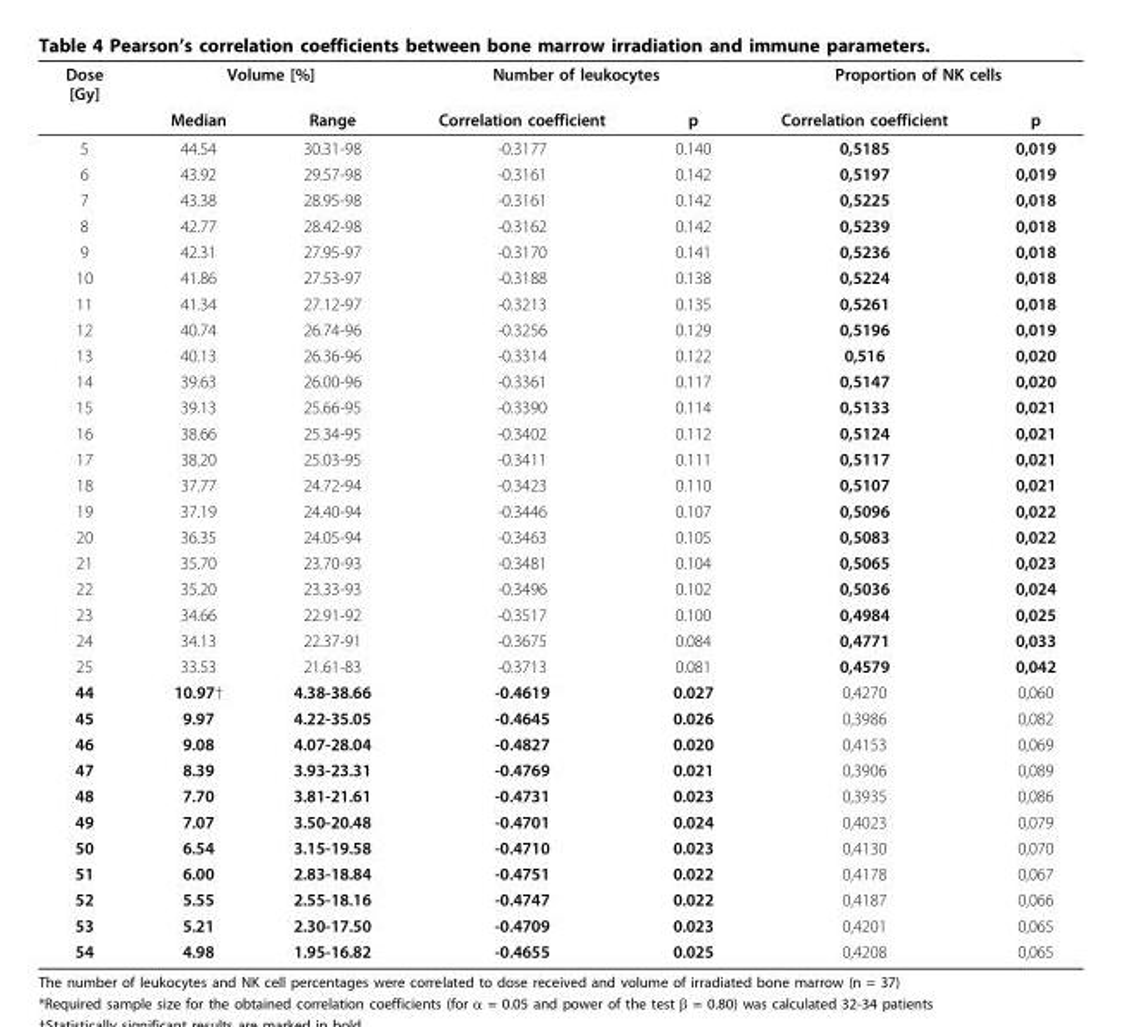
<table><thead><tr><td rowspan="2">Dose [Gy]</td><td colspan="2">Volume [%]</td><td colspan="2">Number of leukocytes</td><td colspan="2">Proportion of NK cells</td></tr><tr><td>Median</td><td>Range</td><td>Correlation coefficient</td><td>p</td><td>Correlation coefficient</td><td>p</td></tr></thead><tbody><tr><td>5</td><td>44.54</td><td>30.31-98</td><td>-0.3177</td><td>0.140</td><td>0,5185</td><td>0,019</td></tr><tr><td>6</td><td>43.92</td><td>29.57-98</td><td>-0.3161</td><td>0.142</td><td>0,5197</td><td>0,019</td></tr><tr><td>7</td><td>43.38</td><td>28.95-98</td><td>-0.3161</td><td>0.142</td><td>0,5225</td><td>0,018</td></tr><tr><td>8</td><td>42.77</td><td>28.42-98</td><td>-0.3162</td><td>0.142</td><td>0,5239</td><td>0,018</td></tr><tr><td>9</td><td>42.31</td><td>27.95-97</td><td>-0.3170</td><td>0.141</td><td>0,5236</td><td>0,018</td></tr><tr><td>10</td><td>41.86</td><td>27.53-97</td><td>-0.3188</td><td>0.138</td><td>0,5224</td><td>0,018</td></tr><tr><td>11</td><td>41.34</td><td>27.12-97</td><td>-0.3213</td><td>0.135</td><td>0,5261</td><td>0,018</td></tr><tr><td>12</td><td>40.74</td><td>26.74-96</td><td>-0.3256</td><td>0.129</td><td>0,5196</td><td>0,019</td></tr><tr><td>13</td><td>40.13</td><td>26.36-96</td><td>-0.3314</td><td>0.122</td><td>0,516</td><td>0,020</td></tr><tr><td>14</td><td>39.63</td><td>26.00-96</td><td>-0.3361</td><td>0.117</td><td>0,5147</td><td>0,020</td></tr><tr><td>15</td><td>39.13</td><td>25.66-95</td><td>-0.3390</td><td>0.114</td><td>0,5133</td><td>0,021</td></tr><tr><td>16</td><td>38.66</td><td>25.34-95</td><td>-0.3402</td><td>0.112</td><td>0,5124</td><td>0,021</td></tr><tr><td>17</td><td>38.20</td><td>25.03-95</td><td>-0.3411</td><td>0.111</td><td>0,5117</td><td>0,021</td></tr><tr><td>18</td><td>37.77</td><td>24.72-94</td><td>-0.3423</td><td>0.110</td><td>0,5107</td><td>0,021</td></tr><tr><td>19</td><td>37.19</td><td>24.40-94</td><td>-0.3446</td><td>0.107</td><td>0,5096</td><td>0,022</td></tr><tr><td>20</td><td>36.35</td><td>24.05-94</td><td>-0.3463</td><td>0.105</td><td>0,5083</td><td>0,022</td></tr><tr><td>21</td><td>35.70</td><td>23.70-93</td><td>-0.3481</td><td>0.104</td><td>0,5065</td><td>0,023</td></tr><tr><td>22</td><td>35.20</td><td>23.33-93</td><td>-0.3496</td><td>0.102</td><td>0,5036</td><td>0,024</td></tr><tr><td>23</td><td>34.66</td><td>22.91-92</td><td>-0.3517</td><td>0.100</td><td>0,4984</td><td>0,025</td></tr><tr><td>24</td><td>34.13</td><td>22.37-91</td><td>-0.3675</td><td>0.084</td><td>0,4771</td><td>0,033</td></tr><tr><td>25</td><td>33.53</td><td>21.61-83</td><td>-0.3713</td><td>0.081</td><td>0,4579</td><td>0,042</td></tr><tr><td>44</td><td>10.97†</td><td>4.38-38.66</td><td>-0.4619</td><td>0.027</td><td>0,4270</td><td>0,060</td></tr><tr><td>45</td><td>9.97</td><td>4.22-35.05</td><td>-0.4645</td><td>0.026</td><td>0,3986</td><td>0,082</td></tr><tr><td>46</td><td>9.08</td><td>4.07-28.04</td><td>-0.4827</td><td>0.020</td><td>0,4153</td><td>0,069</td></tr><tr><td>47</td><td>8.39</td><td>3.93-23.31</td><td>-0.4769</td><td>0.021</td><td>0,3906</td><td>0,089</td></tr><tr><td>48</td><td>7.70</td><td>3.81-21.61</td><td>-0.4731</td><td>0.023</td><td>0,3935</td><td>0,086</td></tr><tr><td>49</td><td>7.07</td><td>3.50-20.48</td><td>-0.4701</td><td>0.024</td><td>0,4023</td><td>0,079</td></tr><tr><td>50</td><td>6.54</td><td>3.15-19.58</td><td>-0.4710</td><td>0.023</td><td>0,4130</td><td>0,070</td></tr><tr><td>51</td><td>6.00</td><td>2.83-18.84</td><td>-0.4751</td><td>0.022</td><td>0,4178</td><td>0,067</td></tr><tr><td>52</td><td>5.55</td><td>2.55-18.16</td><td>-0.4747</td><td>0.022</td><td>0,4187</td><td>0,066</td></tr><tr><td>53</td><td>5.21</td><td>2.30-17.50</td><td>-0.4709</td><td>0.023</td><td>0,4201</td><td>0,065</td></tr><tr><td>54</td><td>4.98</td><td>1.95-16.82</td><td>-0.4655</td><td>0.025</td><td>0,4208</td><td>0,065</td></tr></tbody></table>